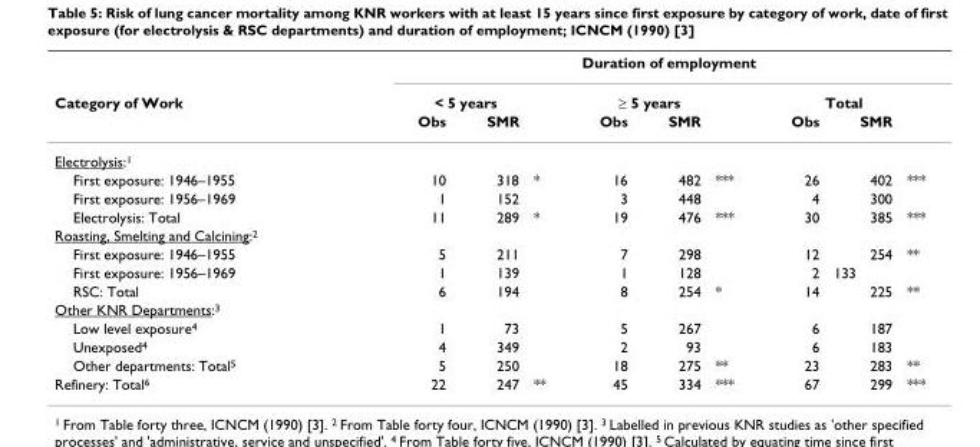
<table><thead><tr><td rowspan="3">Category of Work</td><td colspan="9">Duration of employment</td></tr><tr><td colspan="2">&lt; 5 years</td><td rowspan="2"></td><td colspan="2">≥ 5 years</td><td rowspan="2"></td><td rowspan="2">Obs</td><td colspan="2">Total</td></tr><tr><td>Obs</td><td>SMR</td><td>Obs</td><td>SMR</td><td>SMR</td><td></td></tr></thead><tbody><tr><td colspan="10">Electrolysis:<sup>1</sup></td></tr><tr><td>First exposure: 1946–1955</td><td>10</td><td>318</td><td>*</td><td>16</td><td>482</td><td>***</td><td>26</td><td>402</td><td>***</td></tr><tr><td>First exposure: 1956–1969</td><td>1</td><td>152</td><td></td><td>3</td><td>448</td><td></td><td>4</td><td>300</td><td></td></tr><tr><td>Electrolysis: Total</td><td>11</td><td>289</td><td>*</td><td>19</td><td>476</td><td>***</td><td>30</td><td>385</td><td>***</td></tr><tr><td colspan="10">Roasting, Smelting and Calcining:<sup>2</sup></td></tr><tr><td>First exposure: 1946–1955</td><td>5</td><td>211</td><td></td><td>7</td><td>298</td><td></td><td>12</td><td>254</td><td>**</td></tr><tr><td>First exposure: 1956–1969</td><td>1</td><td>139</td><td></td><td>1</td><td>128</td><td></td><td>2</td><td>133</td><td></td></tr><tr><td>RSC: Total</td><td>6</td><td>194</td><td></td><td>8</td><td>254</td><td>*</td><td>14</td><td>225</td><td>**</td></tr><tr><td colspan="10">Other KNR Departments:<sup>3</sup></td></tr><tr><td>Low level exposure<sup>4</sup></td><td>1</td><td>73</td><td></td><td>5</td><td>267</td><td></td><td>6</td><td>187</td><td></td></tr><tr><td>Unexposed<sup>4</sup></td><td>4</td><td>349</td><td></td><td>2</td><td>93</td><td></td><td>6</td><td>183</td><td></td></tr><tr><td>Other departments: Total<sup>5</sup></td><td>5</td><td>250</td><td></td><td>18</td><td>275</td><td>**</td><td>23</td><td>283</td><td>**</td></tr><tr><td>Refinery: Total<sup>6</sup></td><td>22</td><td>247</td><td>**</td><td>45</td><td>334</td><td>***</td><td>67</td><td>299</td><td>***</td></tr></tbody></table>